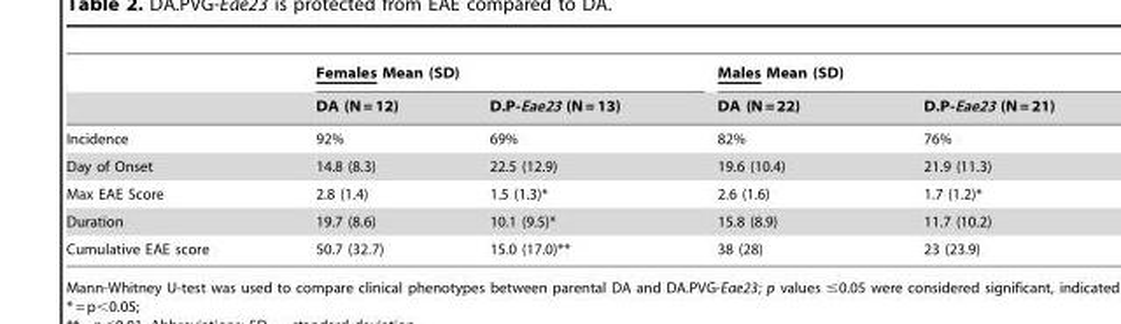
<table><thead><tr><td rowspan="2"></td><td colspan="2">Females Mean (SD)</td><td colspan="2">Males Mean (SD)</td></tr><tr><td>DA (N = 12)</td><td>D.P-Eae23 (N = 13)</td><td>DA (N = 22)</td><td>D.P-Eae23 (N = 21)</td></tr></thead><tbody><tr><td>Incidence</td><td>92%</td><td>69%</td><td>82%</td><td>76%</td></tr><tr><td>Day of Onset</td><td>14.8 (8.3)</td><td>22.5 (12.9)</td><td>19.6 (10.4)</td><td>21.9 (11.3)</td></tr><tr><td>Max EAE Score</td><td>2.8 (1.4)</td><td>1.5 (1.3)*</td><td>2.6 (1.6)</td><td>1.7 (1.2)*</td></tr><tr><td>Duration</td><td>19.7 (8.6)</td><td>10.1 (9.5)*</td><td>15.8 (8.9)</td><td>11.7 (10.2)</td></tr><tr><td>Cumulative EAE score</td><td>50.7 (32.7)</td><td>15.0 (17.0)**</td><td>38 (28)</td><td>23 (23.9)</td></tr></tbody></table>